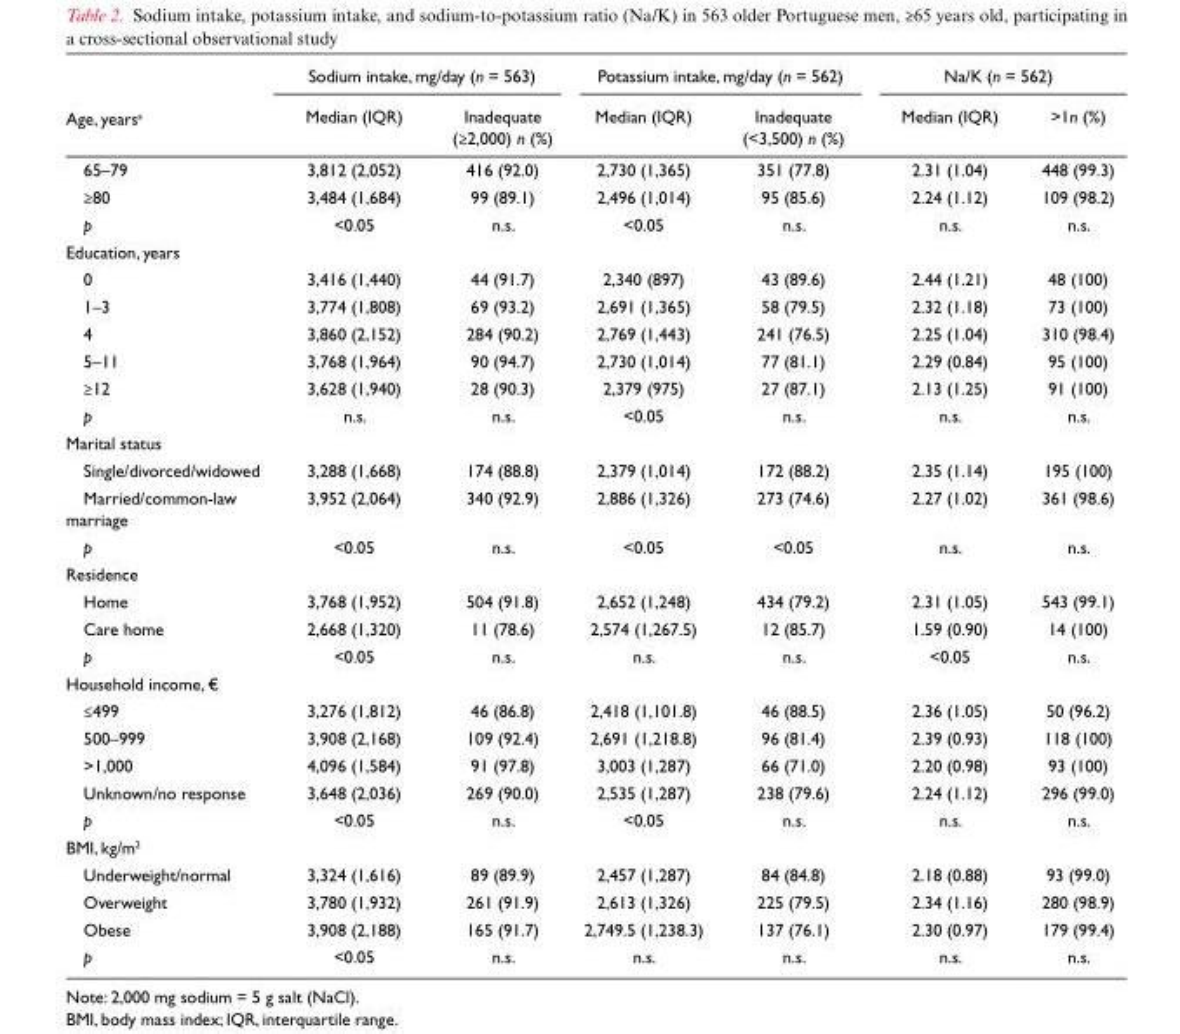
<table><thead><tr><td rowspan="2">Age, years<sup>a</sup></td><td colspan="2">Sodium intake, mg/day (n = 563)</td><td colspan="2">Potassium intake, mg/day (n = 562)</td><td colspan="2">Na/K (n = 562)</td></tr><tr><td>Median (IQR)</td><td>Inadequate (≥2,000) n (%)</td><td>Median (IQR)</td><td>Inadequate (&lt;3,500) n (%)</td><td>Median (IQR)</td><td>&gt;1n (%)</td></tr></thead><tbody><tr><td>65–79</td><td>3,812 (2,052)</td><td>416 (92.0)</td><td>2,730 (1,365)</td><td>351 (77.8)</td><td>2.31 (1.04)</td><td>448 (99.3)</td></tr><tr><td>≥80</td><td>3,484 (1,684)</td><td>99 (89.1)</td><td>2,496 (1,014)</td><td>95 (85.6)</td><td>2.24 (1.12)</td><td>109 (98.2)</td></tr><tr><td>p</td><td>&lt;0.05</td><td>n.s.</td><td>&lt;0.05</td><td>n.s.</td><td>n.s.</td><td>n.s.</td></tr><tr><td colspan="7">Education, years</td></tr><tr><td>0</td><td>3,416 (1,440)</td><td>44 (91.7)</td><td>2,340 (897)</td><td>43 (89.6)</td><td>2.44 (1.21)</td><td>48 (100)</td></tr><tr><td>1–3</td><td>3,774 (1,808)</td><td>69 (93.2)</td><td>2,691 (1,365)</td><td>58 (79.5)</td><td>2.32 (1.18)</td><td>73 (100)</td></tr><tr><td>4</td><td>3,860 (2,152)</td><td>284 (90.2)</td><td>2,769 (1,443)</td><td>241 (76.5)</td><td>2.25 (1.04)</td><td>310 (98.4)</td></tr><tr><td>5–11</td><td>3,768 (1,964)</td><td>90 (94.7)</td><td>2,730 (1,014)</td><td>77 (81.1)</td><td>2.29 (0.84)</td><td>95 (100)</td></tr><tr><td>≥12</td><td>3,628 (1,940)</td><td>28 (90.3)</td><td>2,379 (975)</td><td>27 (87.1)</td><td>2.13 (1.25)</td><td>91 (100)</td></tr><tr><td>p</td><td>n.s.</td><td>n.s.</td><td>&lt;0.05</td><td>n.s.</td><td>n.s.</td><td>n.s.</td></tr><tr><td colspan="7">Marital status</td></tr><tr><td>Single/divorced/widowed</td><td>3,288 (1,668)</td><td>174 (88.8)</td><td>2,379 (1,014)</td><td>172 (88.2)</td><td>2.35 (1.14)</td><td>195 (100)</td></tr><tr><td>Married/common-law marriage</td><td>3,952 (2,064)</td><td>340 (92.9)</td><td>2,886 (1,326)</td><td>273 (74.6)</td><td>2.27 (1.02)</td><td>361 (98.6)</td></tr><tr><td>p</td><td>&lt;0.05</td><td>n.s.</td><td>&lt;0.05</td><td>&lt;0.05</td><td>n.s.</td><td>n.s.</td></tr><tr><td colspan="7">Residence</td></tr><tr><td>Home</td><td>3,768 (1,952)</td><td>504 (91.8)</td><td>2,652 (1,248)</td><td>434 (79.2)</td><td>2.31 (1.05)</td><td>543 (99.1)</td></tr><tr><td>Care home</td><td>2,668 (1,320)</td><td>11 (78.6)</td><td>2,574 (1,267.5)</td><td>12 (85.7)</td><td>1.59 (0.90)</td><td>14 (100)</td></tr><tr><td>p</td><td>&lt;0.05</td><td>n.s.</td><td>n.s.</td><td>n.s.</td><td>&lt;0.05</td><td>n.s.</td></tr><tr><td colspan="7">Household income, €</td></tr><tr><td>≤499</td><td>3,276 (1,812)</td><td>46 (86.8)</td><td>2,418 (1,101.8)</td><td>46 (88.5)</td><td>2.36 (1.05)</td><td>50 (96.2)</td></tr><tr><td>500–999</td><td>3,908 (2,168)</td><td>109 (92.4)</td><td>2,691 (1,218.8)</td><td>96 (81.4)</td><td>2.39 (0.93)</td><td>118 (100)</td></tr><tr><td>&gt;1,000</td><td>4,096 (1,584)</td><td>91 (97.8)</td><td>3,003 (1,287)</td><td>66 (71.0)</td><td>2.20 (0.98)</td><td>93 (100)</td></tr><tr><td>Unknown/no response</td><td>3,648 (2,036)</td><td>269 (90.0)</td><td>2,535 (1,287)</td><td>238 (79.6)</td><td>2.24 (1.12)</td><td>296 (99.0)</td></tr><tr><td>p</td><td>&lt;0.05</td><td>n.s.</td><td>&lt;0.05</td><td>n.s.</td><td>n.s.</td><td>n.s.</td></tr><tr><td colspan="7">BMI, kg/m<sup>2</sup></td></tr><tr><td>Underweight/normal</td><td>3,324 (1,616)</td><td>89 (89.9)</td><td>2,457 (1,287)</td><td>84 (84.8)</td><td>2.18 (0.88)</td><td>93 (99.0)</td></tr><tr><td>Overweight</td><td>3,780 (1,932)</td><td>261 (91.9)</td><td>2,613 (1,326)</td><td>225 (79.5)</td><td>2.34 (1.16)</td><td>280 (98.9)</td></tr><tr><td>Obese</td><td>3,908 (2,188)</td><td>165 (91.7)</td><td>2,749.5 (1,238.3)</td><td>137 (76.1)</td><td>2.30 (0.97)</td><td>179 (99.4)</td></tr><tr><td>p</td><td>&lt;0.05</td><td>n.s.</td><td>n.s.</td><td>n.s.</td><td>n.s.</td><td>n.s.</td></tr></tbody></table>